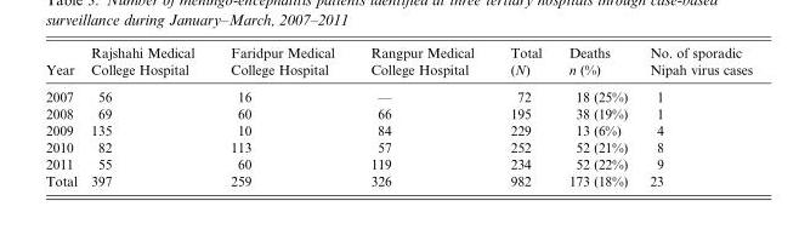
<table><thead><tr><td>Year</td><td>Rajshahi Medical College Hospital</td><td>Faridpur Medical College Hospital</td><td>Rangpur Medical College Hospital</td><td>Total (N)</td><td>Deaths n (%)</td><td>No. of sporadic Nipah virus cases</td></tr></thead><tbody><tr><td>2007</td><td>56</td><td>16</td><td>—</td><td>72</td><td>18 (25%)</td><td>1</td></tr><tr><td>2008</td><td>69</td><td>60</td><td>66</td><td>195</td><td>38 (19%)</td><td>1</td></tr><tr><td>2009</td><td>135</td><td>10</td><td>84</td><td>229</td><td>13 (6%)</td><td>4</td></tr><tr><td>2010</td><td>82</td><td>113</td><td>57</td><td>252</td><td>52 (21%)</td><td>8</td></tr><tr><td>2011</td><td>55</td><td>60</td><td>119</td><td>234</td><td>52 (22%)</td><td>9</td></tr><tr><td>Total</td><td>397</td><td>259</td><td>326</td><td>982</td><td>173 (18%)</td><td>23</td></tr></tbody></table>